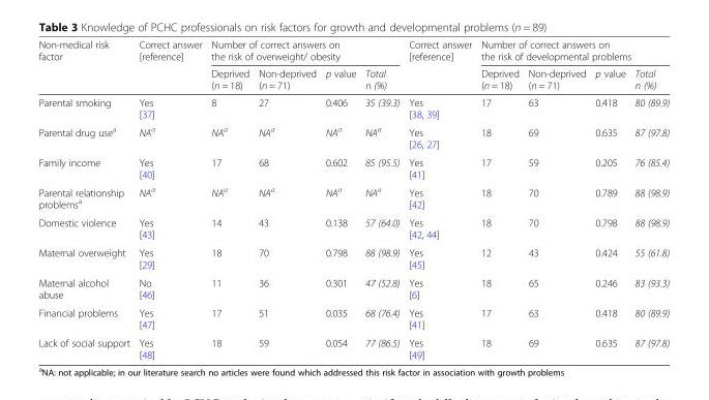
<table><thead><tr><td rowspan="2">Non-medical risk factor</td><td rowspan="2">Correct answer [reference]</td><td colspan="4">Number of correct answers on the risk of overweight/ obesity</td><td rowspan="2">Correct answer [reference]</td><td colspan="4">Number of correct answers on the risk of developmental problems</td></tr><tr><td>Deprived (n = 18)</td><td>Non-deprived (n = 71)</td><td>p value</td><td>Total n (%)</td><td>Deprived (n = 18)</td><td>Non-deprived (n = 71)</td><td>p value</td><td>Total n (%)</td></tr></thead><tbody><tr><td>Parental smoking</td><td>Yes [37]</td><td>8</td><td>27</td><td>0.406</td><td>35 (39.3)</td><td>Yes [38, 39]</td><td>17</td><td>63</td><td>0.418</td><td>80 (89.9)</td></tr><tr><td>Parental drug use<sup>a</sup></td><td>NA<sup>a</sup></td><td>NA<sup>a</sup></td><td>NA<sup>a</sup></td><td>NA<sup>a</sup></td><td>NA<sup>a</sup></td><td>Yes [26, 27]</td><td>18</td><td>69</td><td>0.635</td><td>87 (97.8)</td></tr><tr><td>Family income</td><td>Yes [40]</td><td>17</td><td>68</td><td>0.602</td><td>85 (95.5)</td><td>Yes [41]</td><td>17</td><td>59</td><td>0.205</td><td>76 (85.4)</td></tr><tr><td>Parental relationship problems<sup>a</sup></td><td>NA<sup>a</sup></td><td>NA<sup>a</sup></td><td>NA<sup>a</sup></td><td>NA<sup>a</sup></td><td>NA<sup>a</sup></td><td>Yes [42]</td><td>18</td><td>70</td><td>0.789</td><td>88 (98.9)</td></tr><tr><td>Domestic violence</td><td>Yes [43]</td><td>14</td><td>43</td><td>0.138</td><td>57 (64.0)</td><td>Yes [42, 44]</td><td>18</td><td>70</td><td>0.798</td><td>88 (98.9)</td></tr><tr><td>Maternal overweight</td><td>Yes [29]</td><td>18</td><td>70</td><td>0.798</td><td>88 (98.9)</td><td>Yes [45]</td><td>12</td><td>43</td><td>0.424</td><td>55 (61.8)</td></tr><tr><td>Maternal alcohol abuse</td><td>No [46]</td><td>11</td><td>36</td><td>0.301</td><td>47 (52.8)</td><td>Yes [6]</td><td>18</td><td>65</td><td>0.246</td><td>83 (93.3)</td></tr><tr><td>Financial problems</td><td>Yes [47]</td><td>17</td><td>51</td><td>0.035</td><td>68 (76.4)</td><td>Yes [41]</td><td>17</td><td>63</td><td>0.418</td><td>80 (89.9)</td></tr><tr><td>Lack of social support</td><td>Yes [48]</td><td>18</td><td>59</td><td>0.054</td><td>77 (86.5)</td><td>Yes [49]</td><td>18</td><td>69</td><td>0.635</td><td>87 (97.8)</td></tr></tbody></table>